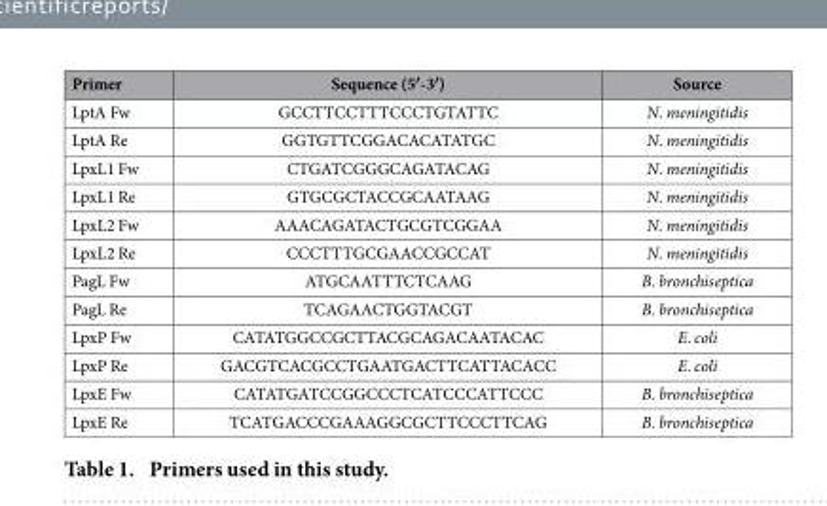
<table><thead><tr><td>Primer</td><td>Sequence (5′-3′)</td><td>Source</td></tr></thead><tbody><tr><td>LptA Fw</td><td>GCCTTCCTTTCCCTGTATTC</td><td>N. meningitidis</td></tr><tr><td>LptA Re</td><td>GGTGTTCGGACACATATGC</td><td>N. meningitidis</td></tr><tr><td>LpxL1 Fw</td><td>CTGATCGGGCAGATACAG</td><td>N. meningitidis</td></tr><tr><td>LpxL1 Re</td><td>GTGCGCTACCGCAATAAG</td><td>N. meningitidis</td></tr><tr><td>LpxL2 Fw</td><td>AAACAGATACTGCGTCGGAA</td><td>N. meningitidis</td></tr><tr><td>LpxL2 Re</td><td>CCCTTTGCGAACCGCCAT</td><td>N. meningitidis</td></tr><tr><td>PagL Fw</td><td>ATGCAATTTCTCAAG</td><td>B. bronchiseptica</td></tr><tr><td>PagL Re</td><td>TCAGAACTGGTACGT</td><td>B. bronchiseptica</td></tr><tr><td>LpxP Fw</td><td>CATATGGCCGCTTACGCAGACAATACAC</td><td>E. coli</td></tr><tr><td>LpxP Re</td><td>GACGTCACGCCTGAATGACTTCATTACACC</td><td>E. coli</td></tr><tr><td>LpxE Fw</td><td>CATATGATCCGGCCCTCATCCCATTCCC</td><td>B. bronchiseptica</td></tr><tr><td>LpxE Re</td><td>TCATGACCCGAAAGGCGCTTCCCTTCAG</td><td>B. bronchiseptica</td></tr></tbody></table>